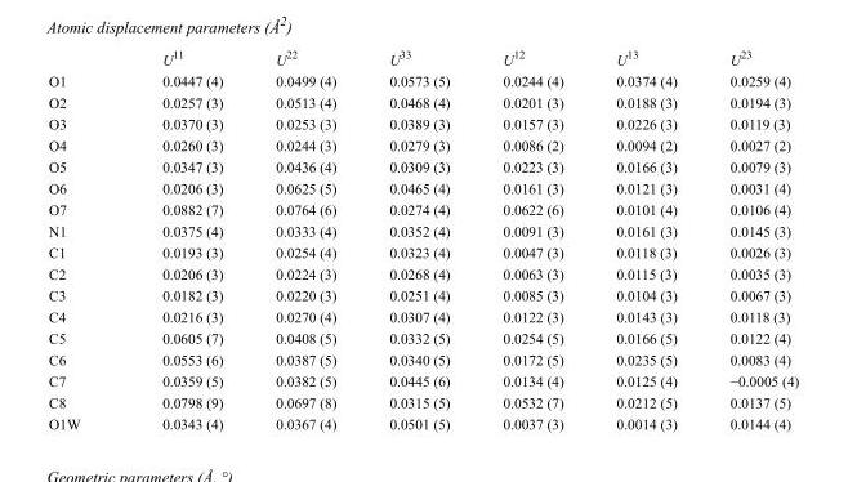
<table><thead><tr><td></td><td>U<sup>11</sup></td><td>U<sup>22</sup></td><td>U<sup>33</sup></td><td>U<sup>12</sup></td><td>U<sup>13</sup></td><td>U<sup>23</sup></td></tr></thead><tbody><tr><td>O1</td><td>0.0447 (4)</td><td>0.0499 (4)</td><td>0.0573 (5)</td><td>0.0244 (4)</td><td>0.0374 (4)</td><td>0.0259 (4)</td></tr><tr><td>O2</td><td>0.0257 (3)</td><td>0.0513 (4)</td><td>0.0468 (4)</td><td>0.0201 (3)</td><td>0.0188 (3)</td><td>0.0194 (3)</td></tr><tr><td>O3</td><td>0.0370 (3)</td><td>0.0253 (3)</td><td>0.0389 (3)</td><td>0.0157 (3)</td><td>0.0226 (3)</td><td>0.0119 (3)</td></tr><tr><td>O4</td><td>0.0260 (3)</td><td>0.0244 (3)</td><td>0.0279 (3)</td><td>0.0086 (2)</td><td>0.0094 (2)</td><td>0.0027 (2)</td></tr><tr><td>O5</td><td>0.0347 (3)</td><td>0.0436 (4)</td><td>0.0309 (3)</td><td>0.0223 (3)</td><td>0.0166 (3)</td><td>0.0079 (3)</td></tr><tr><td>O6</td><td>0.0206 (3)</td><td>0.0625 (5)</td><td>0.0465 (4)</td><td>0.0161 (3)</td><td>0.0121 (3)</td><td>0.0031 (4)</td></tr><tr><td>O7</td><td>0.0882 (7)</td><td>0.0764 (6)</td><td>0.0274 (4)</td><td>0.0622 (6)</td><td>0.0101 (4)</td><td>0.0106 (4)</td></tr><tr><td>N1</td><td>0.0375 (4)</td><td>0.0333 (4)</td><td>0.0352 (4)</td><td>0.0091 (3)</td><td>0.0161 (3)</td><td>0.0145 (3)</td></tr><tr><td>C1</td><td>0.0193 (3)</td><td>0.0254 (4)</td><td>0.0323 (4)</td><td>0.0047 (3)</td><td>0.0118 (3)</td><td>0.0026 (3)</td></tr><tr><td>C2</td><td>0.0206 (3)</td><td>0.0224 (3)</td><td>0.0268 (4)</td><td>0.0063 (3)</td><td>0.0115 (3)</td><td>0.0035 (3)</td></tr><tr><td>C3</td><td>0.0182 (3)</td><td>0.0220 (3)</td><td>0.0251 (4)</td><td>0.0085 (3)</td><td>0.0104 (3)</td><td>0.0067 (3)</td></tr><tr><td>C4</td><td>0.0216 (3)</td><td>0.0270 (4)</td><td>0.0307 (4)</td><td>0.0122 (3)</td><td>0.0143 (3)</td><td>0.0118 (3)</td></tr><tr><td>C5</td><td>0.0605 (7)</td><td>0.0408 (5)</td><td>0.0332 (5)</td><td>0.0254 (5)</td><td>0.0166 (5)</td><td>0.0122 (4)</td></tr><tr><td>C6</td><td>0.0553 (6)</td><td>0.0387 (5)</td><td>0.0340 (5)</td><td>0.0172 (5)</td><td>0.0235 (5)</td><td>0.0083 (4)</td></tr><tr><td>C7</td><td>0.0359 (5)</td><td>0.0382 (5)</td><td>0.0445 (6)</td><td>0.0134 (4)</td><td>0.0125 (4)</td><td>−0.0005 (4)</td></tr><tr><td>C8</td><td>0.0798 (9)</td><td>0.0697 (8)</td><td>0.0315 (5)</td><td>0.0532 (7)</td><td>0.0212 (5)</td><td>0.0137 (5)</td></tr><tr><td>O1W</td><td>0.0343 (4)</td><td>0.0367 (4)</td><td>0.0501 (5)</td><td>0.0037 (3)</td><td>0.0014 (3)</td><td>0.0144 (4)</td></tr></tbody></table>